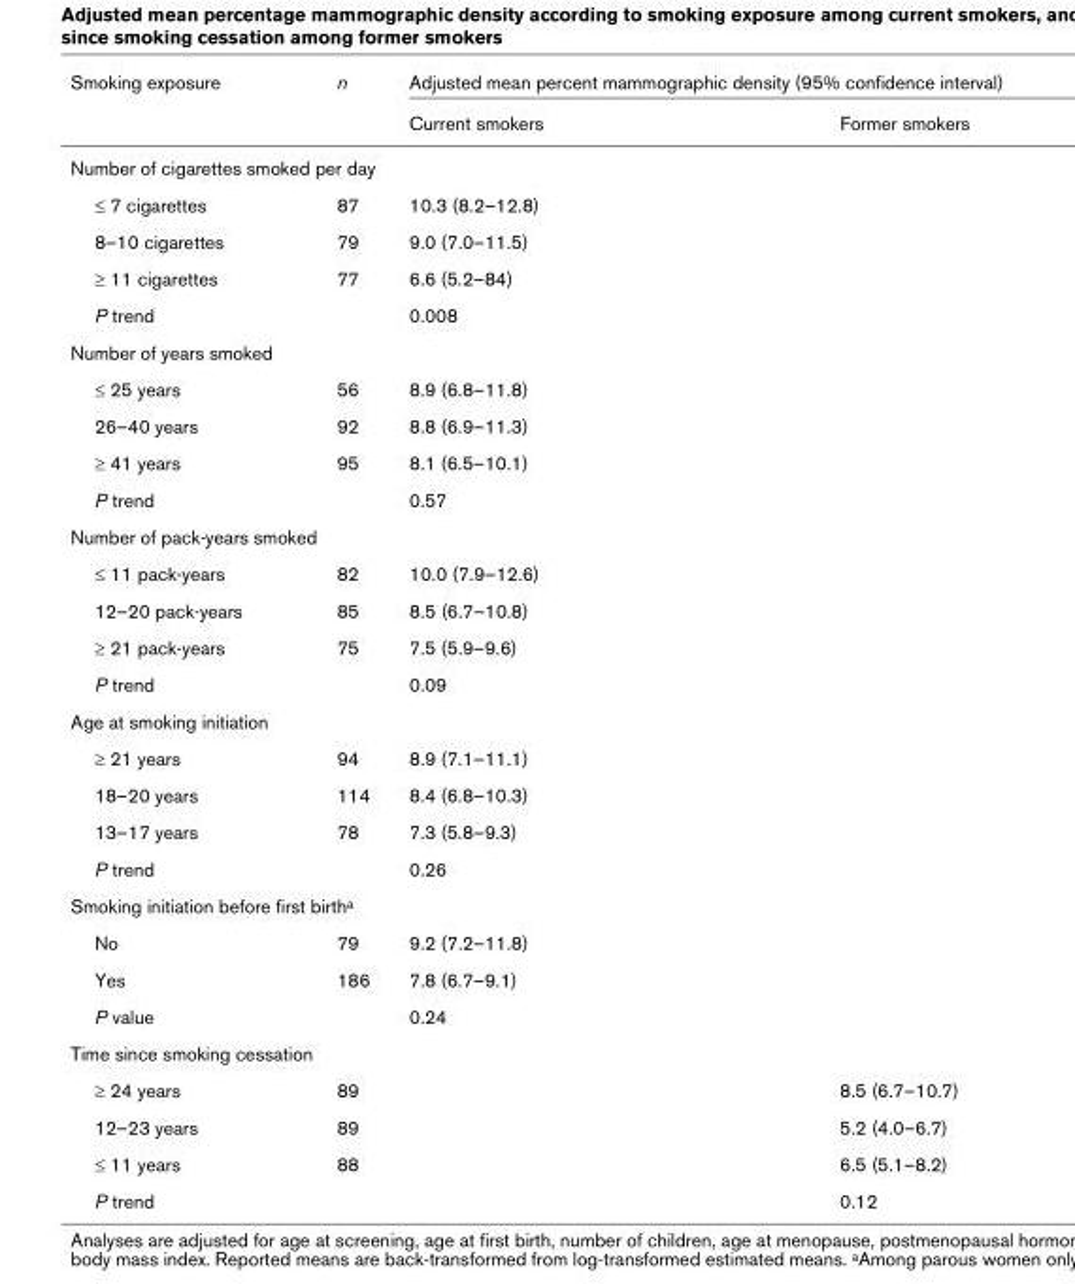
<table><thead><tr><td rowspan="2">Smoking exposure</td><td rowspan="2">n</td><td colspan="2">Adjusted mean percent mammographic density (95% confidence interval)</td></tr><tr><td>Current smokers</td><td>Former smokers</td></tr></thead><tbody><tr><td colspan="4">Number of cigarettes smoked per day</td></tr><tr><td>≤ 7 cigarettes</td><td>87</td><td>10.3 (8.2–12.8)</td><td></td></tr><tr><td>8–10 cigarettes</td><td>79</td><td>9.0 (7.0–11.5)</td><td></td></tr><tr><td>≥ 11 cigarettes</td><td>77</td><td>6.6 (5.2–84)</td><td></td></tr><tr><td>P trend</td><td></td><td>0.008</td><td></td></tr><tr><td colspan="4">Number of years smoked</td></tr><tr><td>≤ 25 years</td><td>56</td><td>8.9 (6.8–11.8)</td><td></td></tr><tr><td>26–40 years</td><td>92</td><td>8.8 (6.9–11.3)</td><td></td></tr><tr><td>≥ 41 years</td><td>95</td><td>8.1 (6.5–10.1)</td><td></td></tr><tr><td>P trend</td><td></td><td>0.57</td><td></td></tr><tr><td colspan="4">Number of pack-years smoked</td></tr><tr><td>≤ 11 pack-years</td><td>82</td><td>10.0 (7.9–12.6)</td><td></td></tr><tr><td>12–20 pack-years</td><td>85</td><td>8.5 (6.7–10.8)</td><td></td></tr><tr><td>≥ 21 pack-years</td><td>75</td><td>7.5 (5.9–9.6)</td><td></td></tr><tr><td>P trend</td><td></td><td>0.09</td><td></td></tr><tr><td colspan="4">Age at smoking initiation</td></tr><tr><td>≥ 21 years</td><td>94</td><td>8.9 (7.1–11.1)</td><td></td></tr><tr><td>18–20 years</td><td>114</td><td>8.4 (6.8–10.3)</td><td></td></tr><tr><td>13–17 years</td><td>78</td><td>7.3 (5.8–9.3)</td><td></td></tr><tr><td>P trend</td><td></td><td>0.26</td><td></td></tr><tr><td colspan="4">Smoking initiation before first birth<sup>a</sup></td></tr><tr><td>No</td><td>79</td><td>9.2 (7.2–11.8)</td><td></td></tr><tr><td>Yes</td><td>186</td><td>7.8 (6.7–9.1)</td><td></td></tr><tr><td>P value</td><td></td><td>0.24</td><td></td></tr><tr><td colspan="4">Time since smoking cessation</td></tr><tr><td>≥ 24 years</td><td>89</td><td></td><td>8.5 (6.7–10.7)</td></tr><tr><td>12–23 years</td><td>89</td><td></td><td>5.2 (4.0–6.7)</td></tr><tr><td>≤ 11 years</td><td>88</td><td></td><td>6.5 (5.1–8.2)</td></tr><tr><td>P trend</td><td></td><td></td><td>0.12</td></tr></tbody></table>